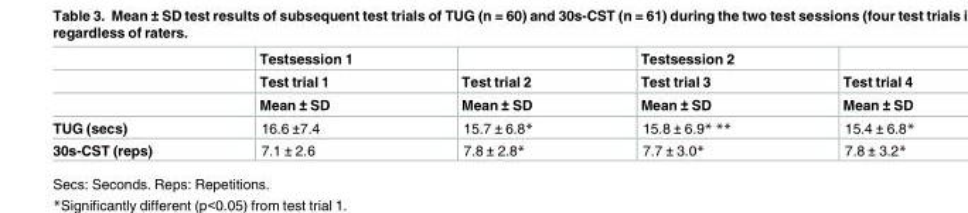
<table><thead><tr><td rowspan="3"></td><td rowspan="3">Testsession 1 Test trial 1 Mean ± SD</td><td rowspan="3">Test trial 2 Mean ± SD</td><td rowspan="3">Testsession 2 Test trial 3 Mean ± SD</td><td rowspan="3">Test trial 4 Mean ± SD</td></tr><tr></tr><tr></tr></thead><tbody><tr><td>TUG (secs)</td><td>16.6 ±7.4</td><td>15.7 ± 6.8*</td><td>15.8 ± 6.9* **</td><td>15.4 ± 6.8*</td></tr><tr><td>30s-CST (reps)</td><td>7.1 ± 2.6</td><td>7.8 ± 2.8*</td><td>7.7 ± 3.0*</td><td>7.8 ± 3.2*</td></tr></tbody></table>